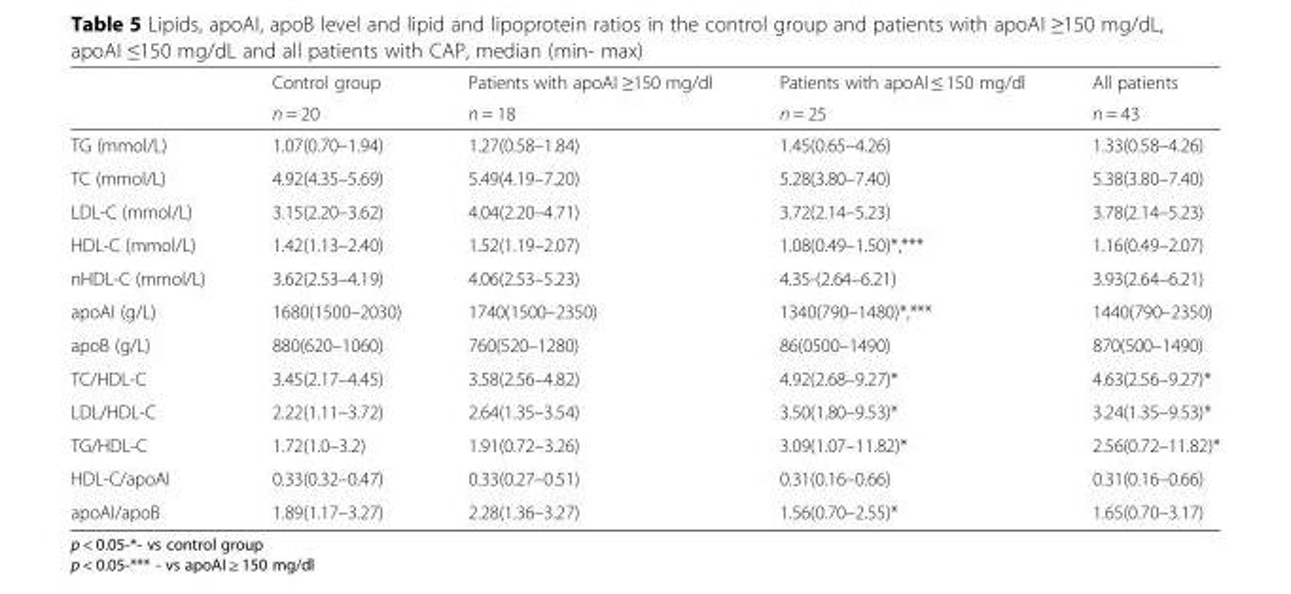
<table><thead><tr><td rowspan="2"></td><td rowspan="2">Control group n = 20</td><td rowspan="2">Patients with apoAI ≥150 mg/dl n = 18</td><td rowspan="2">Patients with apoAI ≤ 150 mg/dl n = 25</td><td rowspan="2">All patients n = 43</td></tr><tr></tr></thead><tbody><tr><td>TG (mmol/L)</td><td>1.07(0.70–1.94)</td><td>1.27(0.58–1.84)</td><td>1.45(0.65–4.26)</td><td>1.33(0.58–4.26)</td></tr><tr><td>TC (mmol/L)</td><td>4.92(4.35–5.69)</td><td>5.49(4.19–7.20)</td><td>5.28(3.80–7.40)</td><td>5.38(3.80–7.40)</td></tr><tr><td>LDL-C (mmol/L)</td><td>3.15(2.20–3.62)</td><td>4.04(2.20–4.71)</td><td>3.72(2.14–5.23)</td><td>3.78(2.14–5.23)</td></tr><tr><td>HDL-C (mmol/L)</td><td>1.42(1.13–2.40)</td><td>1.52(1.19–2.07)</td><td>1.08(0.49–1.50)*,***</td><td>1.16(0.49–2.07)</td></tr><tr><td>nHDL-C (mmol/L)</td><td>3.62(2.53–4.19)</td><td>4.06(2.53–5.23)</td><td>4.35-(2.64–6.21)</td><td>3.93(2.64–6.21)</td></tr><tr><td>apoAI (g/L)</td><td>1680(1500–2030)</td><td>1740(1500–2350)</td><td>1340(790–1480)*,***</td><td>1440(790–2350)</td></tr><tr><td>apoB (g/L)</td><td>880(620–1060)</td><td>760(520–1280)</td><td>86(0500–1490)</td><td>870(500–1490)</td></tr><tr><td>TC/HDL-C</td><td>3.45(2.17–4.45)</td><td>3.58(2.56–4.82)</td><td>4.92(2.68–9.27)*</td><td>4.63(2.56–9.27)*</td></tr><tr><td>LDL/HDL-C</td><td>2.22(1.11–3.72)</td><td>2.64(1.35–3.54)</td><td>3.50(1.80–9.53)*</td><td>3.24(1.35–9.53)*</td></tr><tr><td>TG/HDL-C</td><td>1.72(1.0–3.2)</td><td>1.91(0.72–3.26)</td><td>3.09(1.07–11.82)*</td><td>2.56(0.72–11.82)*</td></tr><tr><td>HDL-C/apoAI</td><td>0.33(0.32–0.47)</td><td>0.33(0.27–0.51)</td><td>0.31(0.16–0.66)</td><td>0.31(0.16–0.66)</td></tr><tr><td>apoAI/apoB</td><td>1.89(1.17–3.27)</td><td>2.28(1.36–3.27)</td><td>1.56(0.70–2.55)*</td><td>1.65(0.70–3.17)</td></tr></tbody></table>